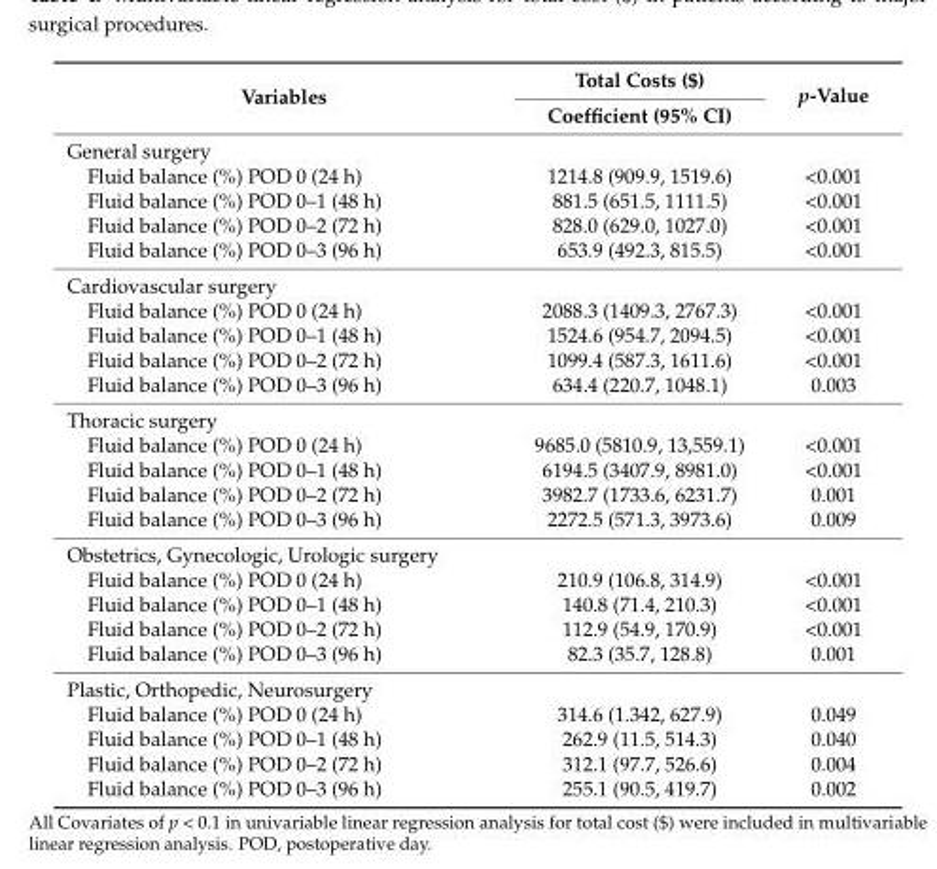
<table><thead><tr><td rowspan="2">Variables</td><td rowspan="2">Total Costs ($) Coefficient (95% CI)</td><td rowspan="2">p-Value</td></tr><tr></tr></thead><tbody><tr><td colspan="3">General surgery</td></tr><tr><td>Fluid balance (%) POD 0 (24 h)</td><td>1214.8 (909.9, 1519.6)</td><td>&lt;0.001</td></tr><tr><td>Fluid balance (%) POD 0–1 (48 h)</td><td>881.5 (651.5, 1111.5)</td><td>&lt;0.001</td></tr><tr><td>Fluid balance (%) POD 0–2 (72 h)</td><td>828.0 (629.0, 1027.0)</td><td>&lt;0.001</td></tr><tr><td>Fluid balance (%) POD 0–3 (96 h)</td><td>653.9 (492.3, 815.5)</td><td>&lt;0.001</td></tr><tr><td colspan="3">Cardiovascular surgery</td></tr><tr><td>Fluid balance (%) POD 0 (24 h)</td><td>2088.3 (1409.3, 2767.3)</td><td>&lt;0.001</td></tr><tr><td>Fluid balance (%) POD 0–1 (48 h)</td><td>1524.6 (954.7, 2094.5)</td><td>&lt;0.001</td></tr><tr><td>Fluid balance (%) POD 0–2 (72 h)</td><td>1099.4 (587.3, 1611.6)</td><td>&lt;0.001</td></tr><tr><td>Fluid balance (%) POD 0–3 (96 h)</td><td>634.4 (220.7, 1048.1)</td><td>0.003</td></tr><tr><td colspan="3">Thoracic surgery</td></tr><tr><td>Fluid balance (%) POD 0 (24 h)</td><td>9685.0 (5810.9, 13,559.1)</td><td>&lt;0.001</td></tr><tr><td>Fluid balance (%) POD 0–1 (48 h)</td><td>6194.5 (3407.9, 8981.0)</td><td>&lt;0.001</td></tr><tr><td>Fluid balance (%) POD 0–2 (72 h)</td><td>3982.7 (1733.6, 6231.7)</td><td>0.001</td></tr><tr><td>Fluid balance (%) POD 0–3 (96 h)</td><td>2272.5 (571.3, 3973.6)</td><td>0.009</td></tr><tr><td colspan="3">Obstetrics, Gynecologic, Urologic surgery</td></tr><tr><td>Fluid balance (%) POD 0 (24 h)</td><td>210.9 (106.8, 314.9)</td><td>&lt;0.001</td></tr><tr><td>Fluid balance (%) POD 0–1 (48 h)</td><td>140.8 (71.4, 210.3)</td><td>&lt;0.001</td></tr><tr><td>Fluid balance (%) POD 0–2 (72 h)</td><td>112.9 (54.9, 170.9)</td><td>&lt;0.001</td></tr><tr><td>Fluid balance (%) POD 0–3 (96 h)</td><td>82.3 (35.7, 128.8)</td><td>0.001</td></tr><tr><td colspan="3">Plastic, Orthopedic, Neurosurgery</td></tr><tr><td>Fluid balance (%) POD 0 (24 h)</td><td>314.6 (1.342, 627.9)</td><td>0.049</td></tr><tr><td>Fluid balance (%) POD 0–1 (48 h)</td><td>262.9 (11.5, 514.3)</td><td>0.040</td></tr><tr><td>Fluid balance (%) POD 0–2 (72 h)</td><td>312.1 (97.7, 526.6)</td><td>0.004</td></tr><tr><td>Fluid balance (%) POD 0–3 (96 h)</td><td>255.1 (90.5, 419.7)</td><td>0.002</td></tr></tbody></table>